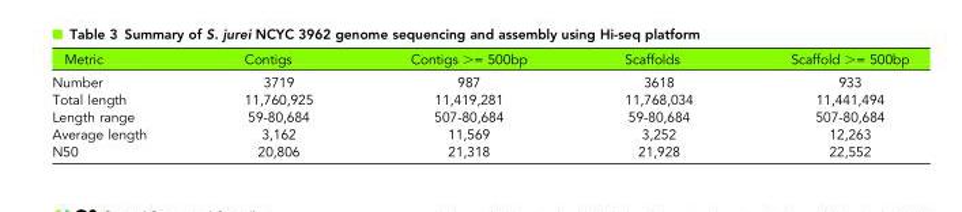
<table><thead><tr><td>Metric</td><td>Contigs</td><td>Contigs &gt;= 500bp</td><td>Scaffolds</td><td>Scaffold &gt;= 500bp</td></tr></thead><tbody><tr><td>Number</td><td>3719</td><td>987</td><td>3618</td><td>933</td></tr><tr><td>Total length</td><td>11,760,925</td><td>11,419,281</td><td>11,768,034</td><td>11,441,494</td></tr><tr><td>Length range</td><td>59-80,684</td><td>507-80,684</td><td>59-80,684</td><td>507-80,684</td></tr><tr><td>Average length</td><td>3,162</td><td>11,569</td><td>3,252</td><td>12,263</td></tr><tr><td>N50</td><td>20,806</td><td>21,318</td><td>21,928</td><td>22,552</td></tr></tbody></table>